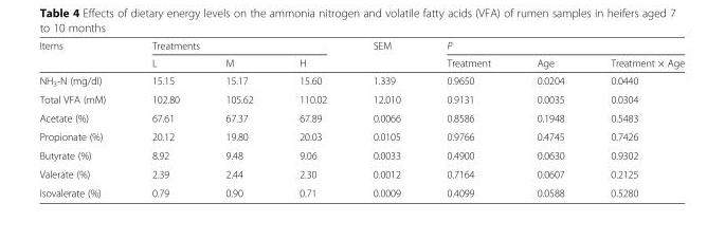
<table><thead><tr><td rowspan="2">Items</td><td colspan="3">Treatments</td><td rowspan="2">SEM</td><td colspan="3">P</td></tr><tr><td>L</td><td>M</td><td>H</td><td>Treatment</td><td>Age</td><td>Treatment × Age</td></tr></thead><tbody><tr><td>NH<sub>3</sub>-N (mg/dl)</td><td>15.15</td><td>15.17</td><td>15.60</td><td>1.339</td><td>0.9650</td><td>0.0204</td><td>0.0440</td></tr><tr><td>Total VFA (mM)</td><td>102.80</td><td>105.62</td><td>110.02</td><td>12.010</td><td>0.9131</td><td>0.0035</td><td>0.0304</td></tr><tr><td>Acetate (%)</td><td>67.61</td><td>67.37</td><td>67.89</td><td>0.0066</td><td>0.8586</td><td>0.1948</td><td>0.5483</td></tr><tr><td>Propionate (%)</td><td>20.12</td><td>19.80</td><td>20.03</td><td>0.0105</td><td>0.9766</td><td>0.4745</td><td>0.7426</td></tr><tr><td>Butyrate (%)</td><td>8.92</td><td>9.48</td><td>9.06</td><td>0.0033</td><td>0.4900</td><td>0.0630</td><td>0.9302</td></tr><tr><td>Valerate (%)</td><td>2.39</td><td>2.44</td><td>2.30</td><td>0.0012</td><td>0.7164</td><td>0.0607</td><td>0.2125</td></tr><tr><td>Isovalerate (%)</td><td>0.79</td><td>0.90</td><td>0.71</td><td>0.0009</td><td>0.4099</td><td>0.0588</td><td>0.5280</td></tr></tbody></table>